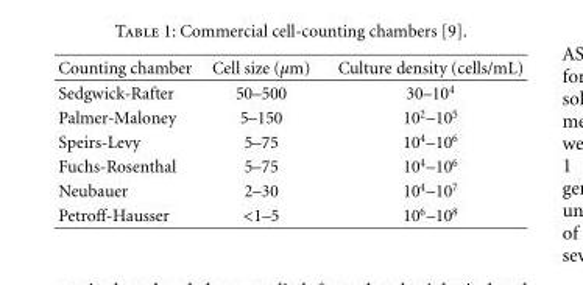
<table><thead><tr><td>Counting chamber</td><td>Cell size (μm)</td><td>Culture density (cells/mL)</td></tr></thead><tbody><tr><td>Sedgwick-Rafter</td><td>50–500</td><td>30–10<sup>4</sup></td></tr><tr><td>Palmer-Maloney</td><td>5–150</td><td>10<sup>2</sup>–10<sup>5</sup></td></tr><tr><td>Speirs-Levy</td><td>5–75</td><td>10<sup>4</sup>–10<sup>6</sup></td></tr><tr><td>Fuchs-Rosenthal</td><td>5–75</td><td>10<sup>4</sup>–10<sup>6</sup></td></tr><tr><td>Neubauer</td><td>2–30</td><td>10<sup>4</sup>–10<sup>7</sup></td></tr><tr><td>Petroff-Hausser</td><td>&lt;1–5</td><td>10<sup>6</sup>–10<sup>8</sup></td></tr></tbody></table>